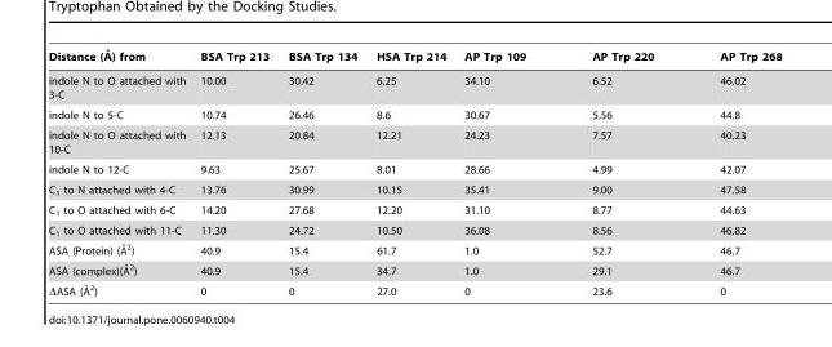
<table><thead><tr><td>Distance (A˚ ) from</td><td>BSA Trp 213</td><td>BSA Trp 134</td><td>HSA Trp 214</td><td>AP Trp 109</td><td>AP Trp 220</td><td>AP Trp 268</td></tr></thead><tbody><tr><td>indole N to O attached with 3-C</td><td>10.00</td><td>30.42</td><td>6.25</td><td>34.10</td><td>6.52</td><td>46.02</td></tr><tr><td>indole N to 5-C</td><td>10.74</td><td>26.46</td><td>8.6</td><td>30.67</td><td>5.56</td><td>44.8</td></tr><tr><td>indole N to O attached with 10-C</td><td>12.13</td><td>20.84</td><td>12.21</td><td>24.23</td><td>7.57</td><td>40.23</td></tr><tr><td>indole N to 12-C</td><td>9.63</td><td>25.67</td><td>8.01</td><td>28.66</td><td>4.99</td><td>42.07</td></tr><tr><td>C<sub>1</sub> to N attached with 4-C</td><td>13.76</td><td>30.99</td><td>10.15</td><td>35.41</td><td>9.00</td><td>47.58</td></tr><tr><td>C<sub>1</sub> to O attached with 6-C</td><td>14.20</td><td>27.68</td><td>12.20</td><td>31.10</td><td>8.77</td><td>44.63</td></tr><tr><td>C<sub>1</sub> to O attached with 11-C</td><td>11.30</td><td>24.72</td><td>10.50</td><td>36.08</td><td>8.56</td><td>46.82</td></tr><tr><td>ASA (Protein) (A˚2)</td><td>40.9</td><td>15.4</td><td>61.7</td><td>1.0</td><td>52.7</td><td>46.7</td></tr><tr><td>ASA (complex)(A˚ 2)</td><td>40.9</td><td>15.4</td><td>34.7</td><td>1.0</td><td>29.1</td><td>46.7</td></tr><tr><td>DASA (A˚2)</td><td>0</td><td>0</td><td>27.0</td><td>0</td><td>23.6</td><td>0</td></tr></tbody></table>